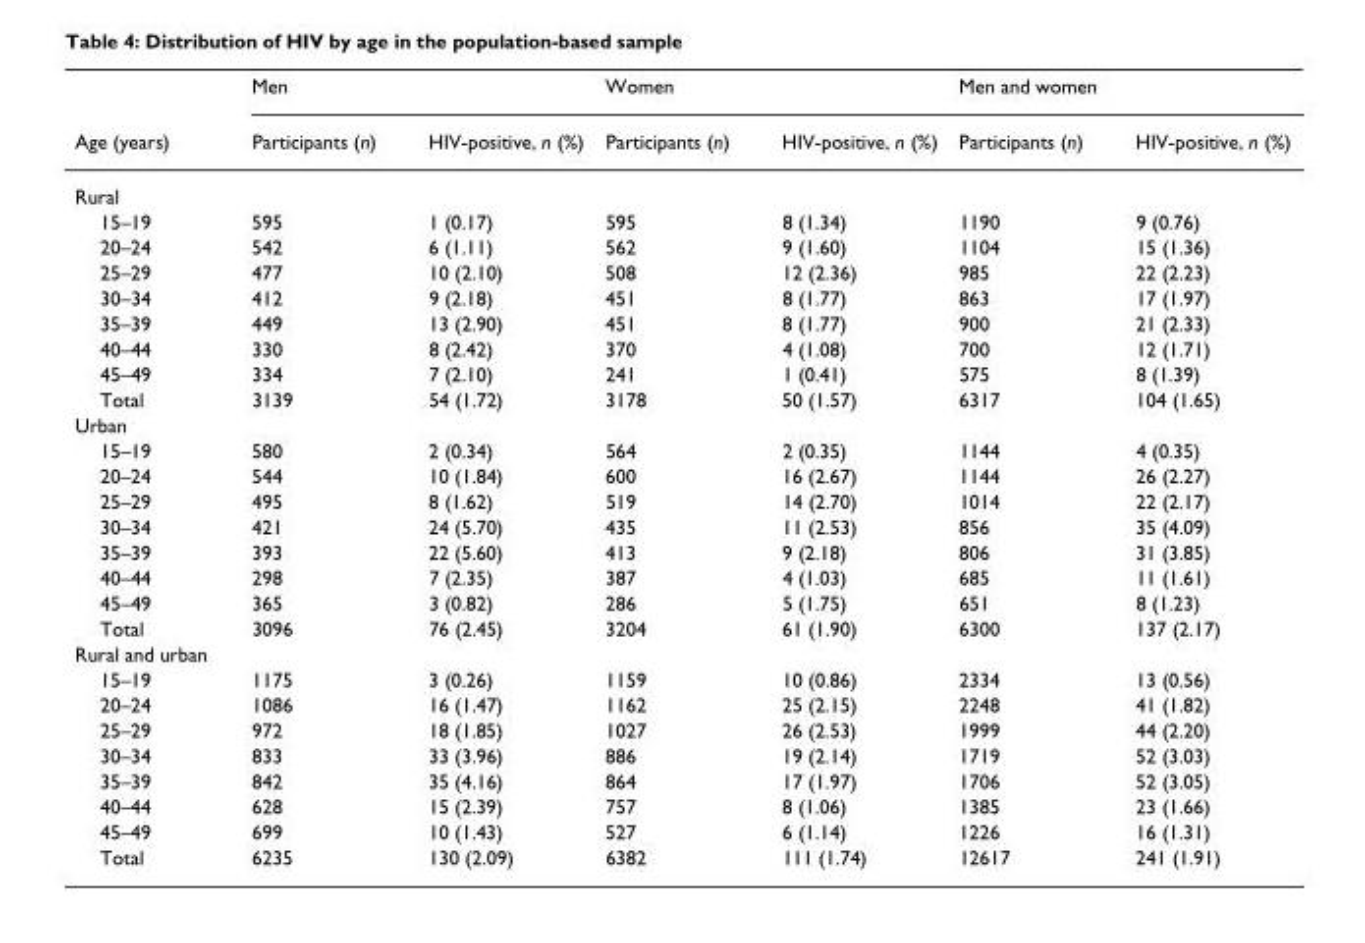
<table><thead><tr><td rowspan="2">Age (years)</td><td colspan="2">Men</td><td colspan="2">Women</td><td colspan="2">Men and women</td></tr><tr><td>Participants (n)</td><td>HIV-positive, n (%)</td><td>Participants (n)</td><td>HIV-positive, n (%)</td><td>Participants (n)</td><td>HIV-positive, n (%)</td></tr></thead><tbody><tr><td colspan="7">Rural</td></tr><tr><td>15–19</td><td>595</td><td>1 (0.17)</td><td>595</td><td>8 (1.34)</td><td>1190</td><td>9 (0.76)</td></tr><tr><td>20–24</td><td>542</td><td>6 (1.11)</td><td>562</td><td>9 (1.60)</td><td>1104</td><td>15 (1.36)</td></tr><tr><td>25–29</td><td>477</td><td>10 (2.10)</td><td>508</td><td>12 (2.36)</td><td>985</td><td>22 (2.23)</td></tr><tr><td>30–34</td><td>412</td><td>9 (2.18)</td><td>451</td><td>8 (1.77)</td><td>863</td><td>17 (1.97)</td></tr><tr><td>35–39</td><td>449</td><td>13 (2.90)</td><td>451</td><td>8 (1.77)</td><td>900</td><td>21 (2.33)</td></tr><tr><td>40–44</td><td>330</td><td>8 (2.42)</td><td>370</td><td>4 (1.08)</td><td>700</td><td>12 (1.71)</td></tr><tr><td>45–49</td><td>334</td><td>7 (2.10)</td><td>241</td><td>1 (0.41)</td><td>575</td><td>8 (1.39)</td></tr><tr><td>Total</td><td>3139</td><td>54 (1.72)</td><td>3178</td><td>50 (1.57)</td><td>6317</td><td>104 (1.65)</td></tr><tr><td colspan="7">Urban</td></tr><tr><td>15–19</td><td>580</td><td>2 (0.34)</td><td>564</td><td>2 (0.35)</td><td>1144</td><td>4 (0.35)</td></tr><tr><td>20–24</td><td>544</td><td>10 (1.84)</td><td>600</td><td>16 (2.67)</td><td>1144</td><td>26 (2.27)</td></tr><tr><td>25–29</td><td>495</td><td>8 (1.62)</td><td>519</td><td>14 (2.70)</td><td>1014</td><td>22 (2.17)</td></tr><tr><td>30–34</td><td>421</td><td>24 (5.70)</td><td>435</td><td>11 (2.53)</td><td>856</td><td>35 (4.09)</td></tr><tr><td>35–39</td><td>393</td><td>22 (5.60)</td><td>413</td><td>9 (2.18)</td><td>806</td><td>31 (3.85)</td></tr><tr><td>40–44</td><td>298</td><td>7 (2.35)</td><td>387</td><td>4 (1.03)</td><td>685</td><td>11 (1.61)</td></tr><tr><td>45–49</td><td>365</td><td>3 (0.82)</td><td>286</td><td>5 (1.75)</td><td>651</td><td>8 (1.23)</td></tr><tr><td>Total</td><td>3096</td><td>76 (2.45)</td><td>3204</td><td>61 (1.90)</td><td>6300</td><td>137 (2.17)</td></tr><tr><td colspan="7">Rural and urban</td></tr><tr><td>15–19</td><td>1175</td><td>3 (0.26)</td><td>1159</td><td>10 (0.86)</td><td>2334</td><td>13 (0.56)</td></tr><tr><td>20–24</td><td>1086</td><td>16 (1.47)</td><td>1162</td><td>25 (2.15)</td><td>2248</td><td>41 (1.82)</td></tr><tr><td>25–29</td><td>972</td><td>18 (1.85)</td><td>1027</td><td>26 (2.53)</td><td>1999</td><td>44 (2.20)</td></tr><tr><td>30–34</td><td>833</td><td>33 (3.96)</td><td>886</td><td>19 (2.14)</td><td>1719</td><td>52 (3.03)</td></tr><tr><td>35–39</td><td>842</td><td>35 (4.16)</td><td>864</td><td>17 (1.97)</td><td>1706</td><td>52 (3.05)</td></tr><tr><td>40–44</td><td>628</td><td>15 (2.39)</td><td>757</td><td>8 (1.06)</td><td>1385</td><td>23 (1.66)</td></tr><tr><td>45–49</td><td>699</td><td>10 (1.43)</td><td>527</td><td>6 (1.14)</td><td>1226</td><td>16 (1.31)</td></tr><tr><td>Total</td><td>6235</td><td>130 (2.09)</td><td>6382</td><td>111 (1.74)</td><td>12617</td><td>241 (1.91)</td></tr></tbody></table>